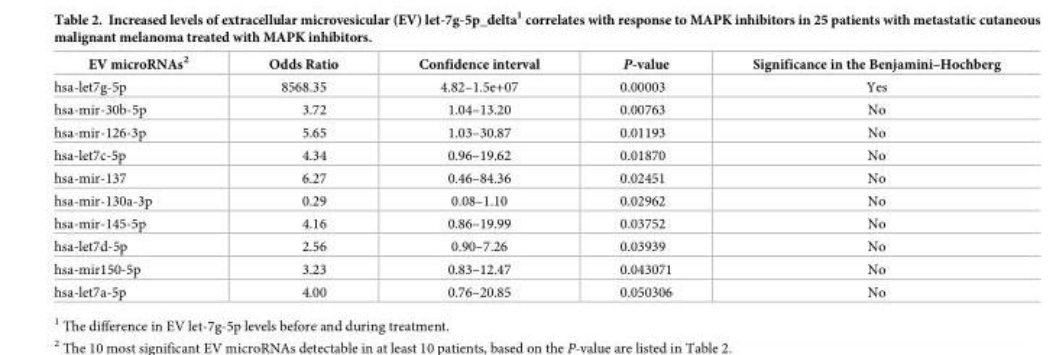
<table><thead><tr><td>EV microRNAs<sup>2</sup></td><td>Odds Ratio</td><td>Confidence interval</td><td>P-value</td><td>Significance in the Benjamini–Hochberg</td></tr></thead><tbody><tr><td>hsa-let7g-5p</td><td>8568.35</td><td>4.82–1.5e+07</td><td>0.00003</td><td>Yes</td></tr><tr><td>hsa-mir-30b-5p</td><td>3.72</td><td>1.04–13.20</td><td>0.00763</td><td>No</td></tr><tr><td>hsa-mir-126-3p</td><td>5.65</td><td>1.03–30.87</td><td>0.01193</td><td>No</td></tr><tr><td>hsa-let7c-5p</td><td>4.34</td><td>0.96–19.62</td><td>0.01870</td><td>No</td></tr><tr><td>hsa-mir-137</td><td>6.27</td><td>0.46–84.36</td><td>0.02451</td><td>No</td></tr><tr><td>hsa-mir-130a-3p</td><td>0.29</td><td>0.08–1.10</td><td>0.02962</td><td>No</td></tr><tr><td>hsa-mir-145-5p</td><td>4.16</td><td>0.86–19.99</td><td>0.03752</td><td>No</td></tr><tr><td>hsa-let7d-5p</td><td>2.56</td><td>0.90–7.26</td><td>0.03939</td><td>No</td></tr><tr><td>hsa-mir150-5p</td><td>3.23</td><td>0.83–12.47</td><td>0.043071</td><td>No</td></tr><tr><td>hsa-let7a-5p</td><td>4.00</td><td>0.76–20.85</td><td>0.050306</td><td>No</td></tr></tbody></table>